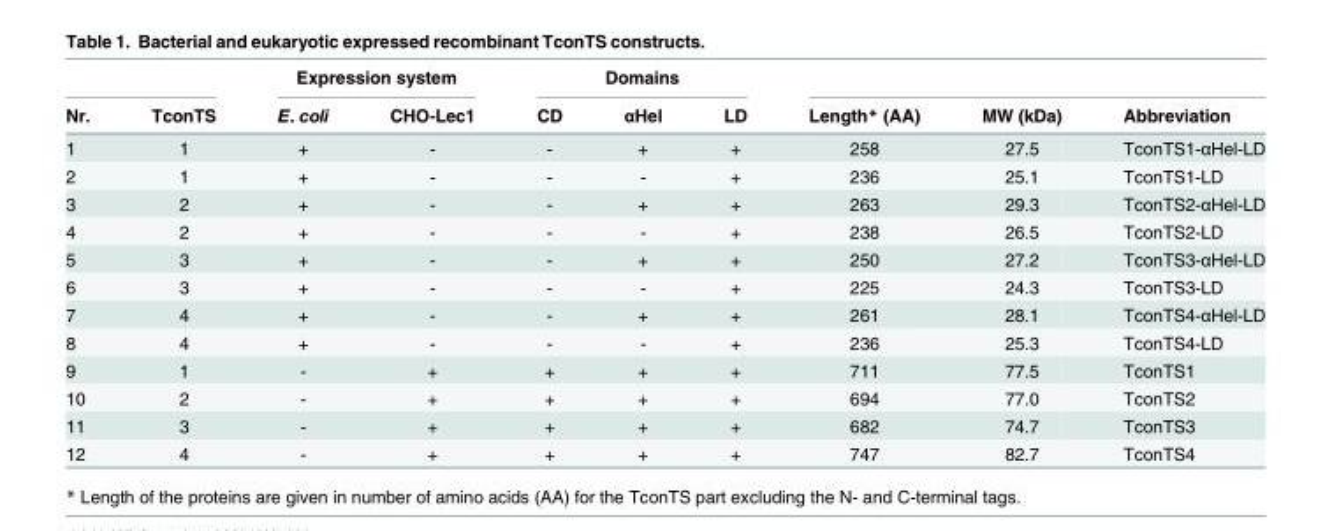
<table><thead><tr><td rowspan="2">Nr.</td><td rowspan="2">TconTS</td><td colspan="2">Expression system</td><td colspan="3">Domains</td><td rowspan="2">Length* (AA)</td><td rowspan="2">MW (kDa)</td><td rowspan="2">Abbreviation</td></tr><tr><td>E. coli</td><td>CHO-Lec1</td><td>CD</td><td>αHel</td><td>LD</td></tr></thead><tbody><tr><td>1</td><td>1</td><td>+</td><td>-</td><td>-</td><td>+</td><td>+</td><td>258</td><td>27.5</td><td>TconTS1-αHel-LD</td></tr><tr><td>2</td><td>1</td><td>+</td><td>-</td><td>-</td><td>-</td><td>+</td><td>236</td><td>25.1</td><td>TconTS1-LD</td></tr><tr><td>3</td><td>2</td><td>+</td><td>-</td><td>-</td><td>+</td><td>+</td><td>263</td><td>29.3</td><td>TconTS2-αHel-LD</td></tr><tr><td>4</td><td>2</td><td>+</td><td>-</td><td>-</td><td>-</td><td>+</td><td>238</td><td>26.5</td><td>TconTS2-LD</td></tr><tr><td>5</td><td>3</td><td>+</td><td>-</td><td>-</td><td>+</td><td>+</td><td>250</td><td>27.2</td><td>TconTS3-αHel-LD</td></tr><tr><td>6</td><td>3</td><td>+</td><td>-</td><td>-</td><td>-</td><td>+</td><td>225</td><td>24.3</td><td>TconTS3-LD</td></tr><tr><td>7</td><td>4</td><td>+</td><td>-</td><td>-</td><td>+</td><td>+</td><td>261</td><td>28.1</td><td>TconTS4-αHel-LD</td></tr><tr><td>8</td><td>4</td><td>+</td><td>-</td><td>-</td><td>-</td><td>+</td><td>236</td><td>25.3</td><td>TconTS4-LD</td></tr><tr><td>9</td><td>1</td><td>-</td><td>+</td><td>+</td><td>+</td><td>+</td><td>711</td><td>77.5</td><td>TconTS1</td></tr><tr><td>10</td><td>2</td><td>-</td><td>+</td><td>+</td><td>+</td><td>+</td><td>694</td><td>77.0</td><td>TconTS2</td></tr><tr><td>11</td><td>3</td><td>-</td><td>+</td><td>+</td><td>+</td><td>+</td><td>682</td><td>74.7</td><td>TconTS3</td></tr><tr><td>12</td><td>4</td><td>-</td><td>+</td><td>+</td><td>+</td><td>+</td><td>747</td><td>82.7</td><td>TconTS4</td></tr></tbody></table>